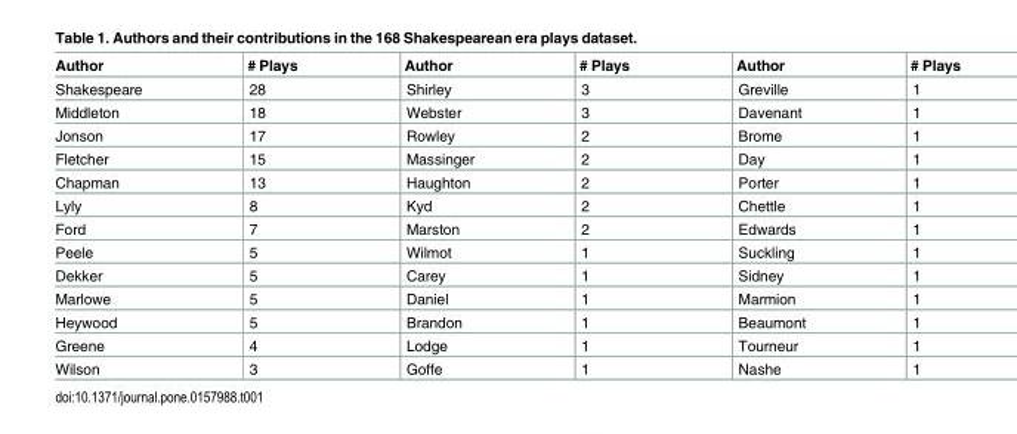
<table><thead><tr><td>Author</td><td># Plays</td><td>Author</td><td># Plays</td><td>Author</td><td># Plays</td></tr></thead><tbody><tr><td>Shakespeare</td><td>28</td><td>Shirley</td><td>3</td><td>Greville</td><td>1</td></tr><tr><td>Middleton</td><td>18</td><td>Webster</td><td>3</td><td>Davenant</td><td>1</td></tr><tr><td>Jonson</td><td>17</td><td>Rowley</td><td>2</td><td>Brome</td><td>1</td></tr><tr><td>Fletcher</td><td>15</td><td>Massinger</td><td>2</td><td>Day</td><td>1</td></tr><tr><td>Chapman</td><td>13</td><td>Haughton</td><td>2</td><td>Porter</td><td>1</td></tr><tr><td>Lyly</td><td>8</td><td>Kyd</td><td>2</td><td>Chettle</td><td>1</td></tr><tr><td>Ford</td><td>7</td><td>Marston</td><td>2</td><td>Edwards</td><td>1</td></tr><tr><td>Peele</td><td>5</td><td>Wilmot</td><td>1</td><td>Suckling</td><td>1</td></tr><tr><td>Dekker</td><td>5</td><td>Carey</td><td>1</td><td>Sidney</td><td>1</td></tr><tr><td>Marlowe</td><td>5</td><td>Daniel</td><td>1</td><td>Marmion</td><td>1</td></tr><tr><td>Heywood</td><td>5</td><td>Brandon</td><td>1</td><td>Beaumont</td><td>1</td></tr><tr><td>Greene</td><td>4</td><td>Lodge</td><td>1</td><td>Tourneur</td><td>1</td></tr><tr><td>Wilson</td><td>3</td><td>Goffe</td><td>1</td><td>Nashe</td><td>1</td></tr></tbody></table>